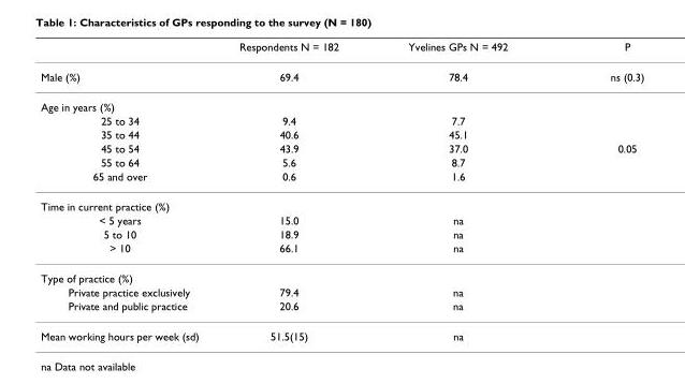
<table><thead><tr><td></td><td>Respondents N = 182</td><td>Yvelines GPs N = 492</td><td>P</td></tr></thead><tbody><tr><td>Male (%)</td><td>69.4</td><td>78.4</td><td>ns (0.3)</td></tr><tr><td colspan="4">Age in years (%)</td></tr><tr><td>25 to 34</td><td>9.4</td><td>7.7</td><td></td></tr><tr><td>35 to 44</td><td>40.6</td><td>45.1</td><td></td></tr><tr><td>45 to 54</td><td>43.9</td><td>37.0</td><td>0.05</td></tr><tr><td>55 to 64</td><td>5.6</td><td>8.7</td><td></td></tr><tr><td>65 and over</td><td>0.6</td><td>1.6</td><td></td></tr><tr><td colspan="4">Time in current practice (%)</td></tr><tr><td>&lt; 5 years</td><td>15.0</td><td>na</td><td></td></tr><tr><td>5 to 10</td><td>18.9</td><td>na</td><td></td></tr><tr><td>&gt; 10</td><td>66.1</td><td>na</td><td></td></tr><tr><td colspan="4">Type of practice (%)</td></tr><tr><td>Private practice exclusively</td><td>79.4</td><td>na</td><td></td></tr><tr><td>Private and public practice</td><td>20.6</td><td>na</td><td></td></tr><tr><td>Mean working hours per week (sd)</td><td>51.5(15)</td><td>na</td><td></td></tr></tbody></table>